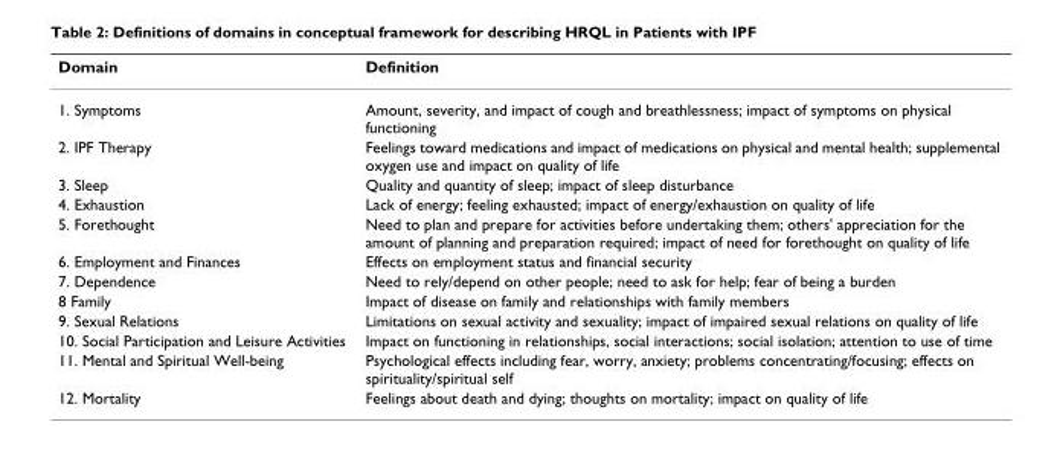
<table><thead><tr><td>Domain</td><td>Definition</td></tr></thead><tbody><tr><td>1. Symptoms</td><td>Amount, severity, and impact of cough and breathlessness; impact of symptoms on physical functioning</td></tr><tr><td>2. IPF Therapy</td><td>Feelings toward medications and impact of medications on physical and mental health; supplemental oxygen use and impact on quality of life</td></tr><tr><td>3. Sleep</td><td>Quality and quantity of sleep; impact of sleep disturbance</td></tr><tr><td>4. Exhaustion</td><td>Lack of energy; feeling exhausted; impact of energy/exhaustion on quality of life</td></tr><tr><td>5. Forethought</td><td>Need to plan and prepare for activities before undertaking them; others&#x27; appreciation for the amount of planning and preparation required; impact of need for forethought on quality of life</td></tr><tr><td>6. Employment and Finances</td><td>Effects on employment status and financial security</td></tr><tr><td>7. Dependence</td><td>Need to rely/depend on other people; need to ask for help; fear of being a burden</td></tr><tr><td>8 Family</td><td>Impact of disease on family and relationships with family members</td></tr><tr><td>9. Sexual Relations</td><td>Limitations on sexual activity and sexuality; impact of impaired sexual relations on quality of life</td></tr><tr><td>10. Social Participation and Leisure Activities</td><td>Impact on functioning in relationships, social interactions; social isolation; attention to use of time</td></tr><tr><td>11. Mental and Spiritual Well-being</td><td>Psychological effects including fear, worry, anxiety; problems concentrating/focusing; effects on spirituality/spiritual self</td></tr><tr><td>12. Mortality</td><td>Feelings about death and dying; thoughts on mortality; impact on quality of life</td></tr></tbody></table>